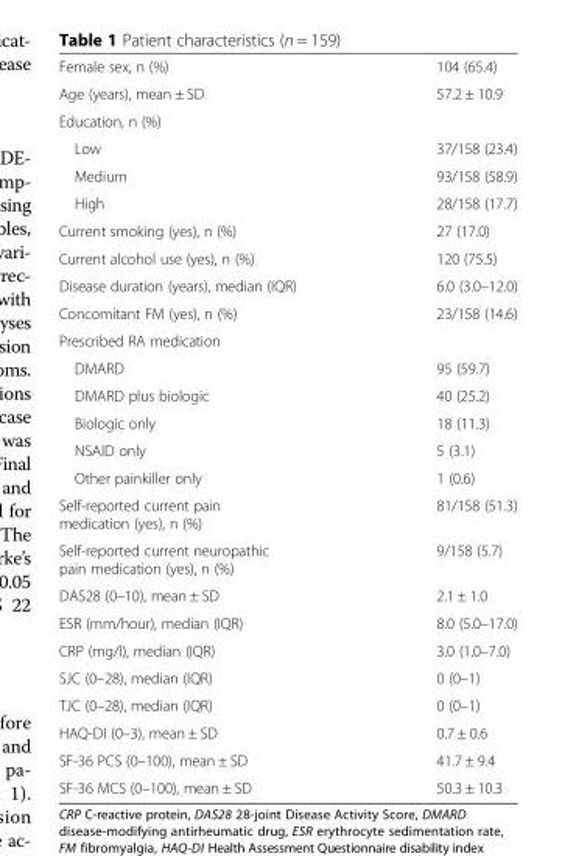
<table><tbody><tr><td>Female sex, n (%)</td><td>104 (65.4)</td></tr><tr><td>Age (years), mean ± SD</td><td>57.2 ± 10.9</td></tr><tr><td colspan="2">Education, n (%)</td></tr><tr><td>Low</td><td>37/158 (23.4)</td></tr><tr><td>Medium</td><td>93/158 (58.9)</td></tr><tr><td>High</td><td>28/158 (17.7)</td></tr><tr><td>Current smoking (yes), n (%)</td><td>27 (17.0)</td></tr><tr><td>Current alcohol use (yes), n (%)</td><td>120 (75.5)</td></tr><tr><td>Disease duration (years), median (IQR)</td><td>6.0 (3.0–12.0)</td></tr><tr><td>Concomitant FM (yes), n (%)</td><td>23/158 (14.6)</td></tr><tr><td colspan="2">Prescribed RA medication</td></tr><tr><td>DMARD</td><td>95 (59.7)</td></tr><tr><td>DMARD plus biologic</td><td>40 (25.2)</td></tr><tr><td>Biologic only</td><td>18 (11.3)</td></tr><tr><td>NSAID only</td><td>5 (3.1)</td></tr><tr><td>Other painkiller only</td><td>1 (0.6)</td></tr><tr><td>Self-reported current pain medication (yes), n (%)</td><td>81/158 (51.3)</td></tr><tr><td>Self-reported current neuropathic pain medication (yes), n (%)</td><td>9/158 (5.7)</td></tr><tr><td>DAS28 (0–10), mean ± SD</td><td>2.1 ± 1.0</td></tr><tr><td>ESR (mm/hour), median (IQR)</td><td>8.0 (5.0–17.0)</td></tr><tr><td>CRP (mg/l), median (IQR)</td><td>3.0 (1.0–7.0)</td></tr><tr><td>SJC (0–28), median (IQR)</td><td>0 (0–1)</td></tr><tr><td>TJC (0–28), median (IQR)</td><td>0 (0–1)</td></tr><tr><td>HAQ-DI (0–3), mean ± SD</td><td>0.7 ± 0.6</td></tr><tr><td>SF-36 PCS (0–100), mean ± SD</td><td>41.7 ± 9.4</td></tr><tr><td>SF-36 MCS (0–100), mean ± SD</td><td>50.3 ± 10.3</td></tr></tbody></table>